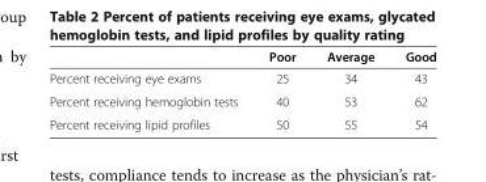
<table><thead><tr><td></td><td>Poor</td><td>Average</td><td>Good</td></tr></thead><tbody><tr><td>Percent receiving eye exams</td><td>25</td><td>34</td><td>43</td></tr><tr><td>Percent receiving hemoglobin tests</td><td>40</td><td>53</td><td>62</td></tr><tr><td>Percent receiving lipid profiles</td><td>50</td><td>55</td><td>54</td></tr></tbody></table>